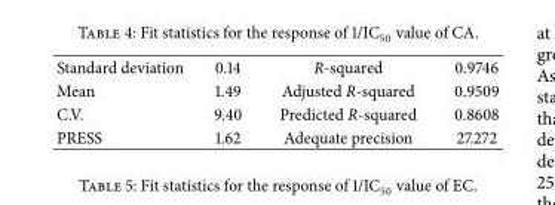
<table><tbody><tr><td>Standard deviation</td><td>0.14</td><td>R-squared</td><td>0.9746</td></tr><tr><td>Mean</td><td>1.49</td><td>Adjusted R-squared</td><td>0.9509</td></tr><tr><td>C.V.</td><td>9.40</td><td>Predicted R-squared</td><td>0.8608</td></tr><tr><td>PRESS</td><td>1.62</td><td>Adequate precision</td><td>27.272</td></tr></tbody></table>